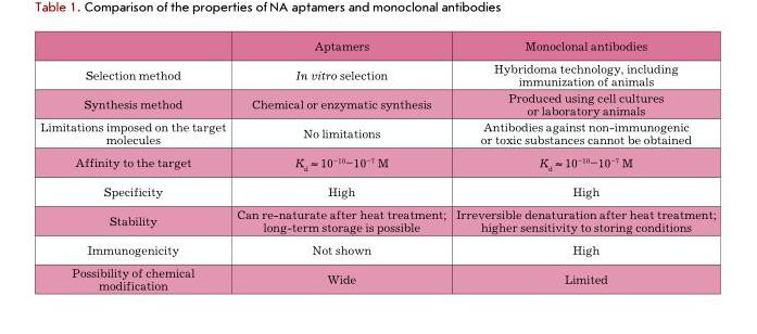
<table><thead><tr><td></td><td>Aptamers</td><td>Monoclonal antibodies</td></tr></thead><tbody><tr><td>Selection method</td><td>In vitro selection</td><td>Hybridoma technology, including immunization of animals</td></tr><tr><td>Synthesis method</td><td>chemical or enzymatic synthesis</td><td>Produced using cell cultures or laboratory animals</td></tr><tr><td>Limitations imposed on the target molecules</td><td>no limitations</td><td>Antibodies against non-immunogenic or toxic substances cannot be obtained</td></tr><tr><td>Affinity to the target</td><td>K<sub>d</sub> ≈ 10<sup>–10</sup>–10<sup>–7</sup> M</td><td>K<sub>d</sub> ≈ 10<sup>–10</sup>–10<sup>–7</sup> M</td></tr><tr><td>Specificity</td><td>High</td><td>High</td></tr><tr><td>Stability</td><td>can re-naturate after heat treatment; long-term storage is possible</td><td>Irreversible denaturation after heat treatment; higher sensitivity to storing conditions</td></tr><tr><td>Immunogenicity</td><td>not shown</td><td>High</td></tr><tr><td>Possibility of chemical modification</td><td>Wide</td><td>Limited</td></tr></tbody></table>